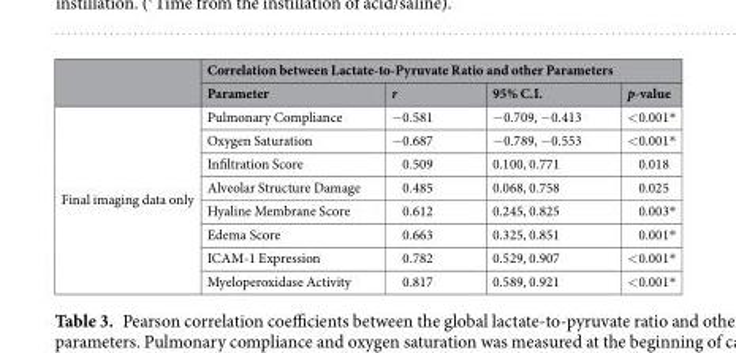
<table><thead><tr><td rowspan="2"></td><td colspan="4">Correlation between Lactate-to-Pyruvate Ratio and other Parameters</td></tr><tr><td>Parameter</td><td>r</td><td>95% C.I.</td><td>p-value</td></tr></thead><tbody><tr><td rowspan="8">Final imaging data only</td><td>Pulmonary Compliance</td><td>−0.581</td><td>−0.709, −0.413</td><td>&lt;0.001*</td></tr><tr><td>Oxygen Saturation</td><td>−0.687</td><td>−0.789, −0.553</td><td>&lt;0.001*</td></tr><tr><td>Infiltration Score</td><td>0.509</td><td>0.100, 0.771</td><td>0.018</td></tr><tr><td>Alveolar Structure Damage</td><td>0.485</td><td>0.068, 0.758</td><td>0.025</td></tr><tr><td>Hyaline Membrane Score</td><td>0.612</td><td>0.245, 0.825</td><td>0.003*</td></tr><tr><td>Edema Score</td><td>0.663</td><td>0.325, 0.851</td><td>0.001*</td></tr><tr><td>ICAM-1 Expression</td><td>0.782</td><td>0.529, 0.907</td><td>&lt;0.001*</td></tr><tr><td>Myeloperoxidase Activity</td><td>0.817</td><td>0.589, 0.921</td><td>&lt;0.001*</td></tr></tbody></table>